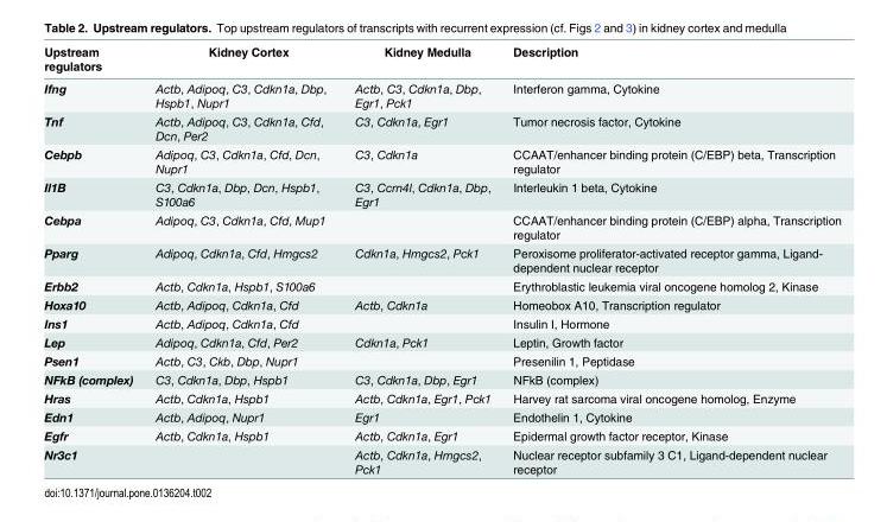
<table><thead><tr><td>Upstream regulators</td><td>Kidney Cortex</td><td>Kidney Medulla</td><td>Description</td></tr></thead><tbody><tr><td>Ifng</td><td>Actb, Adipoq, C3, Cdkn1a, Dbp, Hspb1, Nupr1</td><td>Actb, C3, Cdkn1a, Dbp, Egr1, Pck1</td><td>Interferon gamma, Cytokine</td></tr><tr><td>Tnf</td><td>Actb, Adipoq, C3, Cdkn1a, Cfd, Dcn, Per2</td><td>C3, Cdkn1a, Egr1</td><td>Tumor necrosis factor, Cytokine</td></tr><tr><td>Cebpb</td><td>Adipoq, C3, Cdkn1a, Cfd, Dcn, Nupr1</td><td>C3, Cdkn1a</td><td>CCAAT/enhancer binding protein (C/EBP) beta, Transcription regulator</td></tr><tr><td>Il1B</td><td>C3, Cdkn1a, Dbp, Dcn, Hspb1, S100a6</td><td>C3, Ccrn4l, Cdkn1a, Dbp, Egr1</td><td>Interleukin 1 beta, Cytokine</td></tr><tr><td>Cebpa</td><td>Adipoq, C3, Cdkn1a, Cfd, Mup1</td><td></td><td>CCAAT/enhancer binding protein (C/EBP) alpha, Transcription regulator</td></tr><tr><td>Pparg</td><td>Adipoq, Cdkn1a, Cfd, Hmgcs2</td><td>Cdkn1a, Hmgcs2, Pck1</td><td>Peroxisome proliferator-activated receptor gamma, Ligand- dependent nuclear receptor</td></tr><tr><td>Erbb2</td><td>Actb, Cdkn1a, Hspb1, S100a6</td><td></td><td>Erythroblastic leukemia viral oncogene homolog 2, Kinase</td></tr><tr><td>Hoxa10</td><td>Actb, Adipoq, Cdkn1a, Cfd</td><td>Actb, Cdkn1a</td><td>Homeobox A10, Transcription regulator</td></tr><tr><td>Ins1</td><td>Actb, Adipoq, Cdkn1a, Cfd</td><td></td><td>Insulin I, Hormone</td></tr><tr><td>Lep</td><td>Adipoq, Cdkn1a, Cfd, Per2</td><td>Cdkn1a, Pck1</td><td>Leptin, Growth factor</td></tr><tr><td>Psen1</td><td>Actb, C3, Ckb, Dbp, Nupr1</td><td></td><td>Presenilin 1, Peptidase</td></tr><tr><td>NFkB (complex)</td><td>C3, Cdkn1a, Dbp, Hspb1</td><td>C3, Cdkn1a, Dbp, Egr1</td><td>NFkB (complex)</td></tr><tr><td>Hras</td><td>Actb, Cdkn1a, Hspb1</td><td>Actb, Cdkn1a, Egr1, Pck1</td><td>Harvey rat sarcoma viral oncogene homolog, Enzyme</td></tr><tr><td>Edn1</td><td>Actb, Adipoq, Nupr1</td><td>Egr1</td><td>Endothelin 1, Cytokine</td></tr><tr><td>Egfr</td><td>Actb, Cdkn1a, Hspb1</td><td>Actb, Cdkn1a, Egr1</td><td>Epidermal growth factor receptor, Kinase</td></tr><tr><td>Nr3c1</td><td></td><td>Actb, Cdkn1a, Hmgcs2, Pck1</td><td>Nuclear receptor subfamily 3 C1, Ligand-dependent nuclear receptor</td></tr></tbody></table>